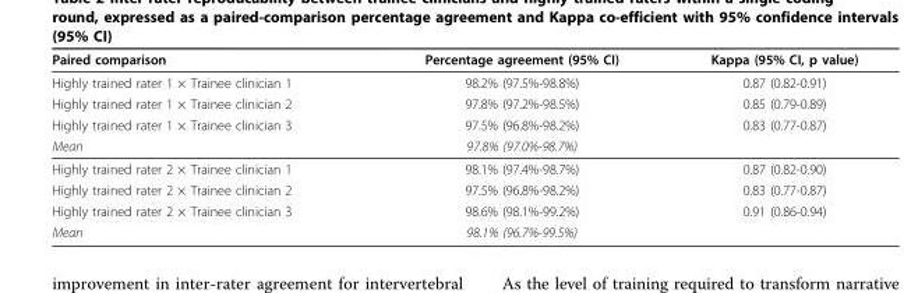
<table><thead><tr><td>Paired comparison</td><td>Percentage agreement (95% CI)</td><td>Kappa (95% CI, p value)</td></tr></thead><tbody><tr><td>Highly trained rater 1 × Trainee clinician 1</td><td>98.2% (97.5%-98.8%)</td><td>0.87 (0.82-0.91)</td></tr><tr><td>Highly trained rater 1 × Trainee clinician 2</td><td>97.8% (97.2%-98.5%)</td><td>0.85 (0.79-0.89)</td></tr><tr><td>Highly trained rater 1 × Trainee clinician 3</td><td>97.5% (96.8%-98.2%)</td><td>0.83 (0.77-0.87)</td></tr><tr><td>Mean</td><td>97.8% (97.0%-98.7%)</td><td></td></tr><tr><td>Highly trained rater 2 × Trainee clinician 1</td><td>98.1% (97.4%-98.7%)</td><td>0.87 (0.82-0.90)</td></tr><tr><td>Highly trained rater 2 × Trainee clinician 2</td><td>97.5% (96.8%-98.2%)</td><td>0.83 (0.77-0.87)</td></tr><tr><td>Highly trained rater 2 × Trainee clinician 3</td><td>98.6% (98.1%-99.2%)</td><td>0.91 (0.86-0.94)</td></tr><tr><td>Mean</td><td>98.1% (96.7%-99.5%)</td><td></td></tr></tbody></table>